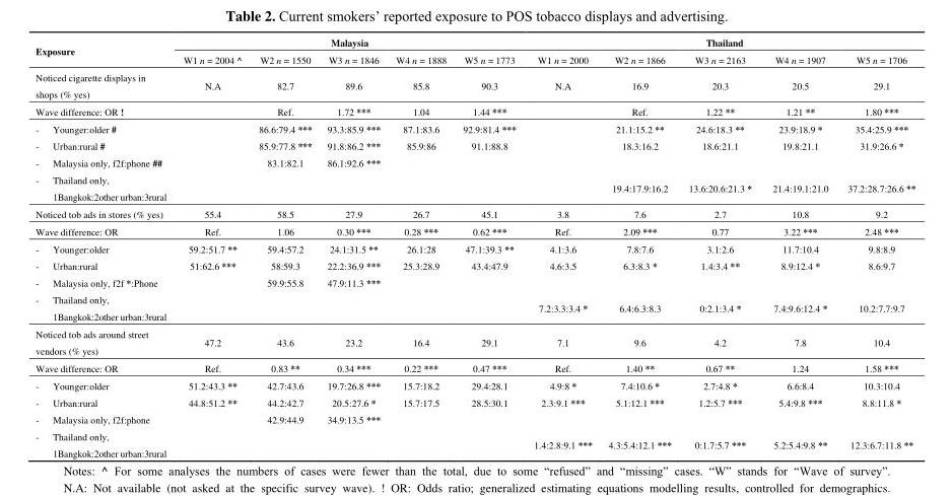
<table><thead><tr><td rowspan="2">Exposure</td><td colspan="5">Malaysia</td><td colspan="5">Thailand</td></tr><tr><td>W1 n = 2004 ^</td><td>W2 n = 1550</td><td>W3 n = 1846</td><td>W4 n = 1888</td><td>W5 n = 1773</td><td>W1 n = 2000</td><td>W2 n = 1866</td><td>W3 n = 2163</td><td>W4 n = 1907</td><td>W5 n = 1706</td></tr></thead><tbody><tr><td>Noticed cigarette displays in shops (% yes)</td><td>N.A</td><td>82.7</td><td>89.6</td><td>85.8</td><td>90.3</td><td>N.A</td><td>16.9</td><td>20.3</td><td>20.5</td><td>29.1</td></tr><tr><td>Wave difference: OR !</td><td></td><td>Ref.</td><td>1.72 ***</td><td>1.04</td><td>1.44 ***</td><td></td><td>Ref.</td><td>1.22 **</td><td>1.21 **</td><td>1.80 ***</td></tr><tr><td>- Younger:older #</td><td></td><td>86.6:79.4 ***</td><td>93.3:85.9 ***</td><td>87.1:83.6</td><td>92.9:81.4 ***</td><td></td><td>21.1:15.2 **</td><td>24.6:18.3 **</td><td>23.9:18.9 *</td><td>35.4:25.9 ***</td></tr><tr><td>- Urban:rural #</td><td></td><td>85.9:77.8 ***</td><td>91.8:86.2 ***</td><td>85.9:86</td><td>91.1:88.8</td><td></td><td>18.3:16.2</td><td>18.6:21.1</td><td>19.8:21.1</td><td>31.9:26.6 *</td></tr><tr><td>- Malaysia only, f2f:phone ##</td><td></td><td>83.1:82.1</td><td>86.1:92.6 ***</td><td></td><td></td><td></td><td></td><td></td><td></td><td></td></tr><tr><td>- Thailand only, 1Bangkok:2other urban:3rural</td><td></td><td></td><td></td><td></td><td></td><td></td><td>19.4:17.9:16.2</td><td>13.6:20.6:21.3 *</td><td>21.4:19.1:21.0</td><td>37.2:28.7:26.6 **</td></tr><tr><td>Noticed tob ads in stores (% yes)</td><td>55.4</td><td>58.5</td><td>27.9</td><td>26.7</td><td>45.1</td><td>3.8</td><td>7.6</td><td>2.7</td><td>10.8</td><td>9.2</td></tr><tr><td>Wave difference: OR</td><td>Ref.</td><td>1.06</td><td>0.30 ***</td><td>0.28 ***</td><td>0.62 ***</td><td>Ref.</td><td>2.09 ***</td><td>0.77</td><td>3.22 ***</td><td>2.48 ***</td></tr><tr><td>- Younger:older</td><td>59.2:51.7 **</td><td>59.4:57.2</td><td>24.1:31.5 **</td><td>26.1:28</td><td>47.1:39.3 **</td><td>4.1:3.6</td><td>7.8:7.6</td><td>3.1:2.6</td><td>11.7:10.4</td><td>9.8:8.9</td></tr><tr><td>- Urban:rural</td><td>51:62.6 ***</td><td>58:59.3</td><td>22.2:36.9 ***</td><td>25.3:28.9</td><td>43.4:47.9</td><td>4.6:3.5</td><td>6.3:8.3 *</td><td>1.4:3.4 **</td><td>8.9:12.4 *</td><td>8.6:9.7</td></tr><tr><td>- Malaysia only, f2f *:Phone</td><td></td><td>59.9:55.8</td><td>47.9:11.3 ***</td><td></td><td></td><td></td><td></td><td></td><td></td><td></td></tr><tr><td>- Thailand only, 1Bangkok:2other urban:3rural</td><td></td><td></td><td></td><td></td><td></td><td>7.2:3.3:3.4 *</td><td>6.4:6.3:8.3</td><td>0:2.1:3.4 *</td><td>7.4:9.6:12.4 *</td><td>10.2:7.7:9.7</td></tr><tr><td>Noticed tob ads around street vendors (% yes)</td><td>47.2</td><td>43.6</td><td>23.2</td><td>16.4</td><td>29.1</td><td>7.1</td><td>9.6</td><td>4.2</td><td>7.8</td><td>10.4</td></tr><tr><td>Wave difference: OR</td><td>Ref.</td><td>0.83 **</td><td>0.34 ***</td><td>0.22 ***</td><td>0.47 ***</td><td>Ref.</td><td>1.40 **</td><td>0.67 **</td><td>1.24</td><td>1.58 ***</td></tr><tr><td>- Younger:older</td><td>51.2:43.3 **</td><td>42.7:43.6</td><td>19.7:26.8 ***</td><td>15.7:18.2</td><td>29.4:28.1</td><td>4.9:8 *</td><td>7.4:10.6 *</td><td>2.7:4.8 *</td><td>6.6:8.4</td><td>10.3:10.4</td></tr><tr><td>- Urban:rural</td><td>44.8:51.2 **</td><td>44.2:42.7</td><td>20.5:27.6 *</td><td>15.7:17.5</td><td>28.5:30.1</td><td>2.3:9.1 ***</td><td>5.1:12.1 ***</td><td>1.2:5.7 ***</td><td>5.4:9.8 ***</td><td>8.8:11.8 *</td></tr><tr><td>- Malaysia only, f2f:phone</td><td></td><td>42.9:44.9</td><td>34.9:13.5 ***</td><td></td><td></td><td></td><td></td><td></td><td></td><td></td></tr><tr><td>- Thailand only, 1Bangkok:2other urban:3rural</td><td></td><td></td><td></td><td></td><td></td><td>1.4:2.8:9.1 ***</td><td>4.3:5.4:12.1 ***</td><td>0:1.7:5.7 ***</td><td>5.2:5.4:9.8 **</td><td>12.3:6.7:11.8 **</td></tr></tbody></table>